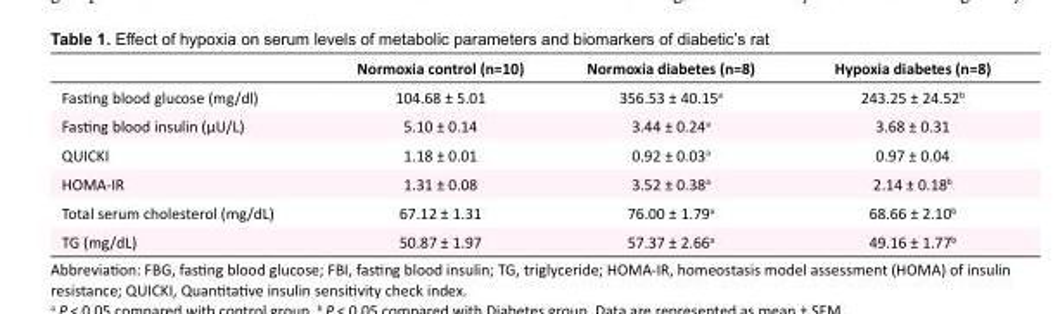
<table><thead><tr><td></td><td>Normoxia control (n=10)</td><td>Normoxia diabetes (n=8)</td><td>Hypoxia diabetes (n=8)</td></tr></thead><tbody><tr><td>Fasting blood glucose (mg/dl)</td><td>104.68 ± 5.01</td><td>356.53 ± 40.15<sup>a</sup></td><td>243.25 ± 24.52<sup>b</sup></td></tr><tr><td>Fasting blood insulin (µU/L)</td><td>5.10 ± 0.14</td><td>3.44 ± 0.24<sup>a</sup></td><td>3.68 ± 0.31</td></tr><tr><td>QUICKI</td><td>1.18 ± 0.01</td><td>0.92 ± 0.03<sup>a</sup></td><td>0.97 ± 0.04</td></tr><tr><td>HOMA-IR</td><td>1.31 ± 0.08</td><td>3.52 ± 0.38<sup>a</sup></td><td>2.14 ± 0.18<sup>b</sup></td></tr><tr><td>Total serum cholesterol (mg/dL)</td><td>67.12 ± 1.31</td><td>76.00 ± 1.79<sup>a</sup></td><td>68.66 ± 2.10<sup>b</sup></td></tr><tr><td>TG (mg/dL)</td><td>50.87 ± 1.97</td><td>57.37 ± 2.66<sup>a</sup></td><td>49.16 ± 1.77<sup>b</sup></td></tr></tbody></table>